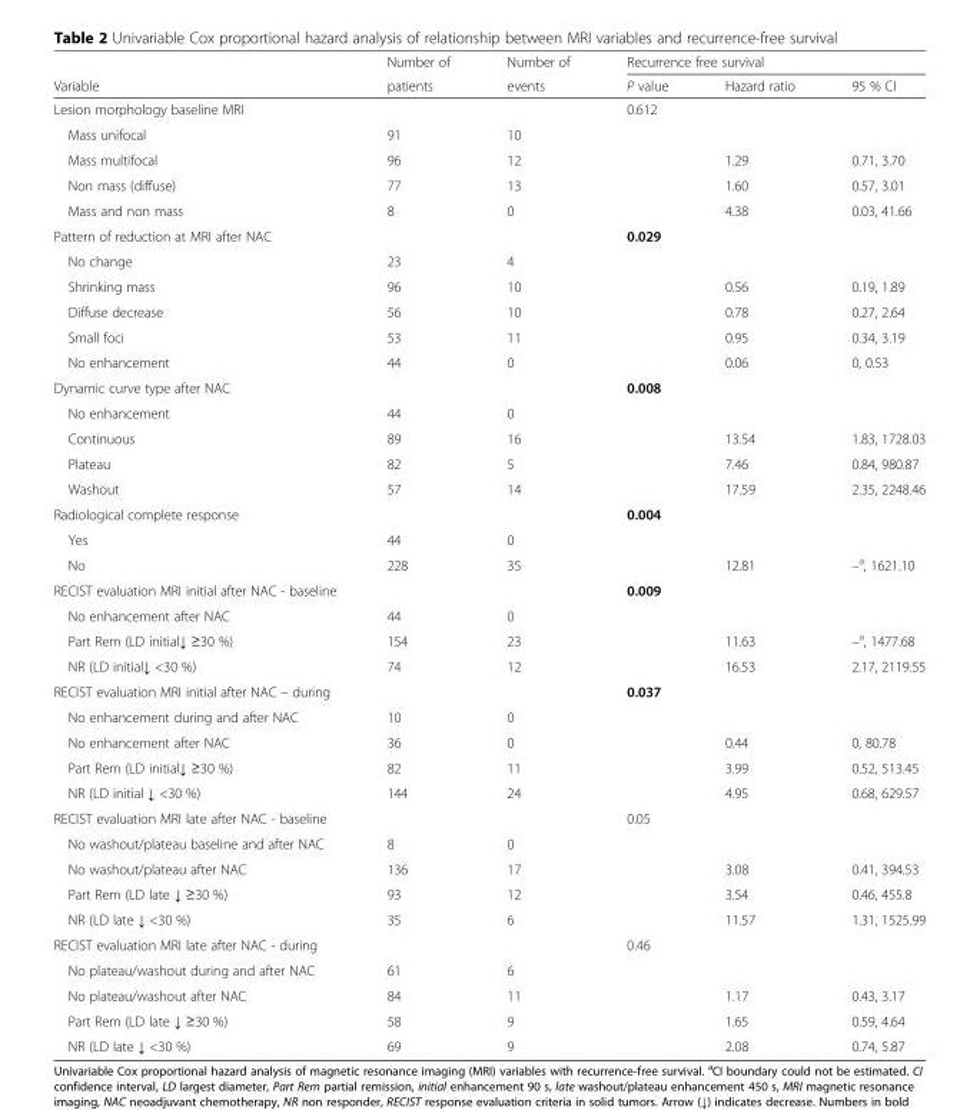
<table><thead><tr><td rowspan="2">Variable</td><td rowspan="2">Number of patients</td><td rowspan="2">Number of events</td><td colspan="3">Recurrence free survival</td></tr><tr><td>P value</td><td>Hazard ratio</td><td>95 % CI</td></tr></thead><tbody><tr><td>Lesion morphology baseline MRI</td><td></td><td></td><td>0.612</td><td></td><td></td></tr><tr><td>Mass unifocal</td><td>91</td><td>10</td><td></td><td></td><td></td></tr><tr><td>Mass multifocal</td><td>96</td><td>12</td><td></td><td>1.29</td><td>0.71, 3.70</td></tr><tr><td>Non mass (diffuse)</td><td>77</td><td>13</td><td></td><td>1.60</td><td>0.57, 3.01</td></tr><tr><td>Mass and non mass</td><td>8</td><td>0</td><td></td><td>4.38</td><td>0.03, 41.66</td></tr><tr><td>Pattern of reduction at MRI after NAC</td><td></td><td></td><td>0.029</td><td></td><td></td></tr><tr><td>No change</td><td>23</td><td>4</td><td></td><td></td><td></td></tr><tr><td>Shrinking mass</td><td>96</td><td>10</td><td></td><td>0.56</td><td>0.19, 1.89</td></tr><tr><td>Diffuse decrease</td><td>56</td><td>10</td><td></td><td>0.78</td><td>0.27, 2.64</td></tr><tr><td>Small foci</td><td>53</td><td>11</td><td></td><td>0.95</td><td>0.34, 3.19</td></tr><tr><td>No enhancement</td><td>44</td><td>0</td><td></td><td>0.06</td><td>0, 0.53</td></tr><tr><td>Dynamic curve type after NAC</td><td></td><td></td><td>0.008</td><td></td><td></td></tr><tr><td>No enhancement</td><td>44</td><td>0</td><td></td><td></td><td></td></tr><tr><td>Continuous</td><td>89</td><td>16</td><td></td><td>13.54</td><td>1.83, 1728.03</td></tr><tr><td>Plateau</td><td>82</td><td>5</td><td></td><td>7.46</td><td>0.84, 980.87</td></tr><tr><td>Washout</td><td>57</td><td>14</td><td></td><td>17.59</td><td>2.35, 2248.46</td></tr><tr><td>Radiological complete response</td><td></td><td></td><td>0.004</td><td></td><td></td></tr><tr><td>Yes</td><td>44</td><td>0</td><td></td><td></td><td></td></tr><tr><td>No</td><td>228</td><td>35</td><td></td><td>12.81</td><td>–<sup>a</sup>, 1621.10</td></tr><tr><td colspan="2">RECIST evaluation MRI initial after NAC - baseline</td><td></td><td>0.009</td><td></td><td></td></tr><tr><td>No enhancement after NAC</td><td>44</td><td>0</td><td></td><td></td><td></td></tr><tr><td>Part Rem (LD initial↓ ≥30 %)</td><td>154</td><td>23</td><td></td><td>11.63</td><td>–<sup>a</sup>, 1477.68</td></tr><tr><td>NR (LD initial↓ &lt;30 %)</td><td>74</td><td>12</td><td></td><td>16.53</td><td>2.17, 2119.55</td></tr><tr><td>RECIST evaluation MRI initial after NAC – during</td><td></td><td></td><td>0.037</td><td></td><td></td></tr><tr><td>No enhancement during and after NAC</td><td>10</td><td>0</td><td></td><td></td><td></td></tr><tr><td>No enhancement after NAC</td><td>36</td><td>0</td><td></td><td>0.44</td><td>0, 80.78</td></tr><tr><td>Part Rem (LD initial↓ ≥30 %)</td><td>82</td><td>11</td><td></td><td>3.99</td><td>0.52, 513.45</td></tr><tr><td>NR (LD initial ↓ &lt;30 %)</td><td>144</td><td>24</td><td></td><td>4.95</td><td>0.68, 629.57</td></tr><tr><td>RECIST evaluation MRI late after NAC - baseline</td><td></td><td></td><td>0.05</td><td></td><td></td></tr><tr><td>No washout/plateau baseline and after NAC</td><td>8</td><td>0</td><td></td><td></td><td></td></tr><tr><td>No washout/plateau after NAC</td><td>136</td><td>17</td><td></td><td>3.08</td><td>0.41, 394.53</td></tr><tr><td>Part Rem (LD late ↓ ≥30 %)</td><td>93</td><td>12</td><td></td><td>3.54</td><td>0.46, 455.8</td></tr><tr><td>NR (LD late ↓ &lt;30 %)</td><td>35</td><td>6</td><td></td><td>11.57</td><td>1.31, 1525.99</td></tr><tr><td>RECIST evaluation MRI late after NAC - during</td><td></td><td></td><td>0.46</td><td></td><td></td></tr><tr><td>No plateau/washout during and after NAC</td><td>61</td><td>6</td><td></td><td></td><td></td></tr><tr><td>No plateau/washout after NAC</td><td>84</td><td>11</td><td></td><td>1.17</td><td>0.43, 3.17</td></tr><tr><td>Part Rem (LD late ↓ ≥30 %)</td><td>58</td><td>9</td><td></td><td>1.65</td><td>0.59, 4.64</td></tr><tr><td>NR (LD late ↓ &lt;30 %)</td><td>69</td><td>9</td><td></td><td>2.08</td><td>0.74, 5.87</td></tr></tbody></table>